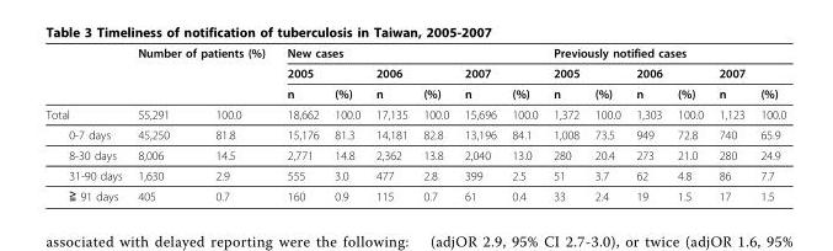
<table><thead><tr><td rowspan="3"></td><td colspan="2">Number of patients (%)</td><td colspan="6">New cases</td><td colspan="6">Previously notified cases</td></tr><tr><td rowspan="2"></td><td rowspan="2"></td><td colspan="2">2005</td><td colspan="2">2006</td><td colspan="2">2007</td><td colspan="2">2005</td><td colspan="2">2006</td><td colspan="2">2007</td></tr><tr><td>n</td><td>(%)</td><td>n</td><td>(%)</td><td>n</td><td>(%)</td><td>n</td><td>(%)</td><td>n</td><td>(%)</td><td>n</td><td>(%)</td></tr></thead><tbody><tr><td>Total</td><td>55,291</td><td>100.0</td><td>18,662</td><td>100.0</td><td>17,135</td><td>100.0</td><td>15,696</td><td>100.0</td><td>1,372</td><td>100.0</td><td>1,303</td><td>100.0</td><td>1,123</td><td>100.0</td></tr><tr><td>0-7 days</td><td>45,250</td><td>81.8</td><td>15,176</td><td>81.3</td><td>14,181</td><td>82.8</td><td>13,196</td><td>84.1</td><td>1,008</td><td>73.5</td><td>949</td><td>72.8</td><td>740</td><td>65.9</td></tr><tr><td>8-30 days</td><td>8,006</td><td>14.5</td><td>2,771</td><td>14.8</td><td>2,362</td><td>13.8</td><td>2,040</td><td>13.0</td><td>280</td><td>20.4</td><td>273</td><td>21.0</td><td>280</td><td>24.9</td></tr><tr><td>31-90 days</td><td>1,630</td><td>2.9</td><td>555</td><td>3.0</td><td>477</td><td>2.8</td><td>399</td><td>2.5</td><td>51</td><td>3.7</td><td>62</td><td>4.8</td><td>86</td><td>7.7</td></tr><tr><td>≧ 91 days</td><td>405</td><td>0.7</td><td>160</td><td>0.9</td><td>115</td><td>0.7</td><td>61</td><td>0.4</td><td>33</td><td>2.4</td><td>19</td><td>1.5</td><td>17</td><td>1.5</td></tr></tbody></table>